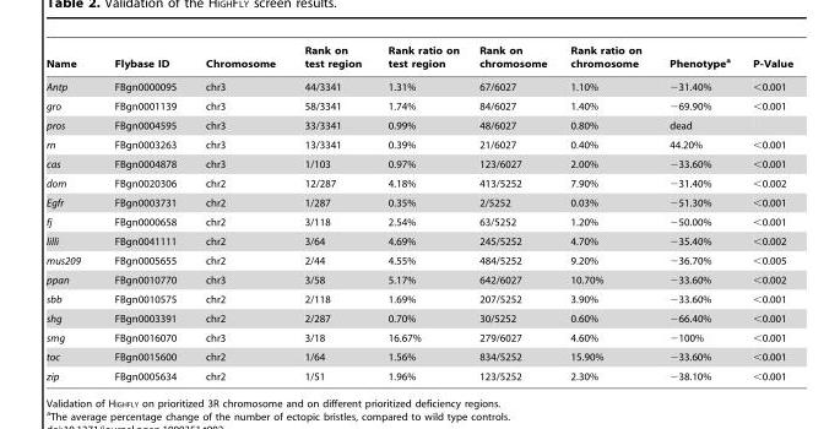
<table><thead><tr><td>Name</td><td>Flybase ID</td><td>Chromosome</td><td>Rank on test region</td><td>Rank ratio on test region</td><td>Rank on chromosome</td><td>Rank ratio on chromosome</td><td>Phenotype<sup>a</sup></td><td>P-Value</td></tr></thead><tbody><tr><td>Antp</td><td>FBgn0000095</td><td>chr3</td><td>44/3341</td><td>1.31%</td><td>67/6027</td><td>1.10%</td><td>−31.40%</td><td>&lt;0.001</td></tr><tr><td>gro</td><td>FBgn0001139</td><td>chr3</td><td>58/3341</td><td>1.74%</td><td>84/6027</td><td>1.40%</td><td>−69.90%</td><td>&lt;0.001</td></tr><tr><td>pros</td><td>FBgn0004595</td><td>chr3</td><td>33/3341</td><td>0.99%</td><td>48/6027</td><td>0.80%</td><td>dead</td><td></td></tr><tr><td>rn</td><td>FBgn0003263</td><td>chr3</td><td>13/3341</td><td>0.39%</td><td>21/6027</td><td>0.40%</td><td>44.20%</td><td>&lt;0.001</td></tr><tr><td>cas</td><td>FBgn0004878</td><td>chr3</td><td>1/103</td><td>0.97%</td><td>123/6027</td><td>2.00%</td><td>−33.60%</td><td>&lt;0.001</td></tr><tr><td>dom</td><td>FBgn0020306</td><td>chr2</td><td>12/287</td><td>4.18%</td><td>413/5252</td><td>7.90%</td><td>−31.40%</td><td>&lt;0.002</td></tr><tr><td>Egfr</td><td>FBgn0003731</td><td>chr2</td><td>1/287</td><td>0.35%</td><td>2/5252</td><td>0.03%</td><td>−51.30%</td><td>&lt;0.001</td></tr><tr><td>fj</td><td>FBgn0000658</td><td>chr2</td><td>3/118</td><td>2.54%</td><td>63/5252</td><td>1.20%</td><td>−50.00%</td><td>&lt;0.001</td></tr><tr><td>lilli</td><td>FBgn0041111</td><td>chr2</td><td>3/64</td><td>4.69%</td><td>245/5252</td><td>4.70%</td><td>−35.40%</td><td>&lt;0.002</td></tr><tr><td>mus209</td><td>FBgn0005655</td><td>chr2</td><td>2/44</td><td>4.55%</td><td>484/5252</td><td>9.20%</td><td>−36.70%</td><td>&lt;0.005</td></tr><tr><td>ppan</td><td>FBgn0010770</td><td>chr3</td><td>3/58</td><td>5.17%</td><td>642/6027</td><td>10.70%</td><td>−33.60%</td><td>&lt;0.002</td></tr><tr><td>sbb</td><td>FBgn0010575</td><td>chr2</td><td>2/118</td><td>1.69%</td><td>207/5252</td><td>3.90%</td><td>−33.60%</td><td>&lt;0.001</td></tr><tr><td>shg</td><td>FBgn0003391</td><td>chr2</td><td>2/287</td><td>0.70%</td><td>30/5252</td><td>0.60%</td><td>−66.40%</td><td>&lt;0.001</td></tr><tr><td>smg</td><td>FBgn0016070</td><td>chr3</td><td>3/18</td><td>16.67%</td><td>279/6027</td><td>4.60%</td><td>−100%</td><td>&lt;0.001</td></tr><tr><td>toc</td><td>FBgn0015600</td><td>chr2</td><td>1/64</td><td>1.56%</td><td>834/5252</td><td>15.90%</td><td>−33.60%</td><td>&lt;0.001</td></tr><tr><td>zip</td><td>FBgn0005634</td><td>chr2</td><td>1/51</td><td>1.96%</td><td>123/5252</td><td>2.30%</td><td>−38.10%</td><td>&lt;0.001</td></tr></tbody></table>